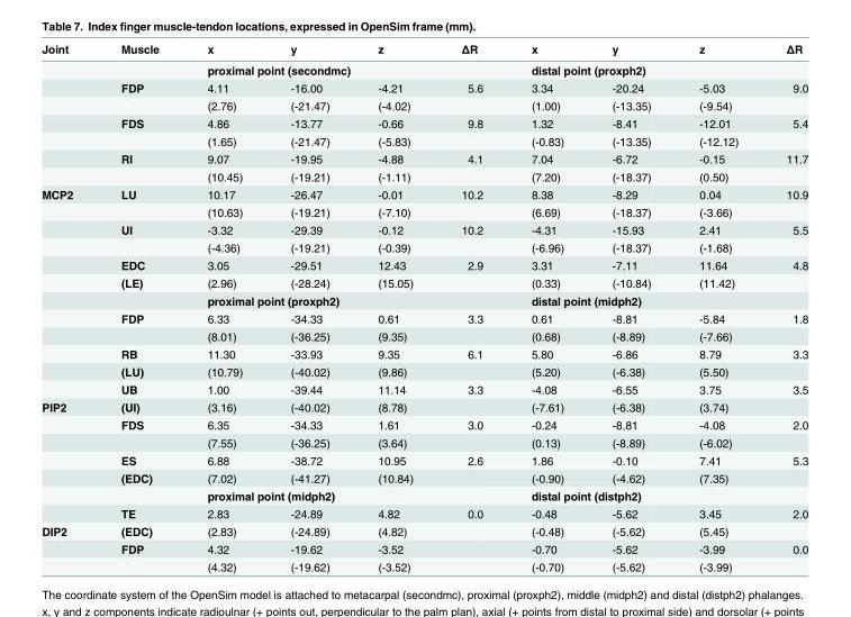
<table><thead><tr><td>Joint</td><td>Muscle</td><td>x</td><td>y</td><td>z</td><td>ΔR</td><td>x</td><td>y</td><td>z</td><td>ΔR</td></tr></thead><tbody><tr><td></td><td></td><td colspan="4">proximal point (secondmc)</td><td colspan="4">distal point (proxph2)</td></tr><tr><td></td><td>FDP</td><td>4.11</td><td>-16.00</td><td>-4.21</td><td>5.6</td><td>3.34</td><td>-20.24</td><td>-5.03</td><td>9.0</td></tr><tr><td></td><td></td><td>(2.76)</td><td>(-21.47)</td><td>(-4.02)</td><td></td><td>(1.00)</td><td>(-13.35)</td><td>(-9.54)</td><td></td></tr><tr><td></td><td>FDS</td><td>4.86</td><td>-13.77</td><td>-0.66</td><td>9.8</td><td>1.32</td><td>-8.41</td><td>-12.01</td><td>5.4</td></tr><tr><td></td><td></td><td>(1.65)</td><td>(-21.47)</td><td>(-5.83)</td><td></td><td>(-0.83)</td><td>(-13.35)</td><td>(-12.12)</td><td></td></tr><tr><td></td><td>RI</td><td>9.07</td><td>-19.95</td><td>-4.88</td><td>4.1</td><td>7.04</td><td>-6.72</td><td>-0.15</td><td>11.7</td></tr><tr><td></td><td></td><td>(10.45)</td><td>(-19.21)</td><td>(-1.11)</td><td></td><td>(7.20)</td><td>(-18.37)</td><td>(0.50)</td><td></td></tr><tr><td rowspan="12">MCP2</td><td>LU</td><td>10.17</td><td>-26.47</td><td>-0.01</td><td>10.2</td><td>8.38</td><td>-8.29</td><td>0.04</td><td>10.9</td></tr><tr><td></td><td>(10.63)</td><td>(-19.21)</td><td>(-7.10)</td><td></td><td>(6.69)</td><td>(-18.37)</td><td>(-3.66)</td><td></td></tr><tr><td>UI</td><td>-3.32</td><td>-29.39</td><td>-0.12</td><td>10.2</td><td>-4.31</td><td>-15.93</td><td>2.41</td><td>5.5</td></tr><tr><td></td><td>(-4.36)</td><td>(-19.21)</td><td>(-0.39)</td><td></td><td>(-6.96)</td><td>(-18.37)</td><td>(-1.68)</td><td></td></tr><tr><td>EDC</td><td>3.05</td><td>-29.51</td><td>12.43</td><td>2.9</td><td>3.31</td><td>-7.11</td><td>11.64</td><td>4.8</td></tr><tr><td>(LE)</td><td>(2.96)</td><td>(-28.24)</td><td>(15.05)</td><td></td><td>(0.33)</td><td>(-10.84)</td><td>(11.42)</td><td></td></tr><tr><td></td><td colspan="4">proximal point (proxph2)</td><td colspan="4">distal point (midph2)</td></tr><tr><td>FDP</td><td>6.33</td><td>-34.33</td><td>0.61</td><td>3.3</td><td>0.61</td><td>-8.81</td><td>-5.84</td><td>1.8</td></tr><tr><td></td><td>(8.01)</td><td>(-36.25)</td><td>(9.35)</td><td></td><td>(0.68)</td><td>(-8.89)</td><td>(-7.66)</td><td></td></tr><tr><td>RB</td><td>11.30</td><td>-33.93</td><td>9.35</td><td>6.1</td><td>5.80</td><td>-6.86</td><td>8.79</td><td>3.3</td></tr><tr><td>(LU)</td><td>(10.79)</td><td>(-40.02)</td><td>(9.86)</td><td></td><td>(5.20)</td><td>(-6.38)</td><td>(5.50)</td><td></td></tr><tr><td>UB</td><td>1.00</td><td>-39.44</td><td>11.14</td><td>3.3</td><td>-4.08</td><td>-6.55</td><td>3.75</td><td>3.5</td></tr><tr><td rowspan="7">PIP2</td><td>(UI)</td><td>(3.16)</td><td>(-40.02)</td><td>(8.78)</td><td></td><td>(-7.61)</td><td>(-6.38)</td><td>(3.74)</td><td></td></tr><tr><td>FDS</td><td>6.35</td><td>-34.33</td><td>1.61</td><td>3.0</td><td>-0.24</td><td>-8.81</td><td>-4.08</td><td>2.0</td></tr><tr><td></td><td>(7.55)</td><td>(-36.25)</td><td>(3.64)</td><td></td><td>(0.13)</td><td>(-8.89)</td><td>(-6.02)</td><td></td></tr><tr><td>ES</td><td>6.88</td><td>-38.72</td><td>10.95</td><td>2.6</td><td>1.86</td><td>-0.10</td><td>7.41</td><td>5.3</td></tr><tr><td>(EDC)</td><td>(7.02)</td><td>(-41.27)</td><td>(10.84)</td><td></td><td>(-0.90)</td><td>(-4.62)</td><td>(7.35)</td><td></td></tr><tr><td></td><td colspan="4">proximal point (midph2)</td><td colspan="4">distal point (distph2)</td></tr><tr><td>TE</td><td>2.83</td><td>-24.89</td><td>4.82</td><td>0.0</td><td>-0.48</td><td>-5.62</td><td>3.45</td><td>2.0</td></tr><tr><td rowspan="3">DIP2</td><td>(EDC)</td><td>(2.83)</td><td>(-24.89)</td><td>(4.82)</td><td></td><td>(-0.48)</td><td>(-5.62)</td><td>(5.45)</td><td></td></tr><tr><td>FDP</td><td>4.32</td><td>-19.62</td><td>-3.52</td><td></td><td>-0.70</td><td>-5.62</td><td>-3.99</td><td>0.0</td></tr><tr><td></td><td>(4.32)</td><td>(-19.62)</td><td>(-3.52)</td><td></td><td>(-0.70)</td><td>(-5.62)</td><td>(-3.99)</td><td></td></tr></tbody></table>